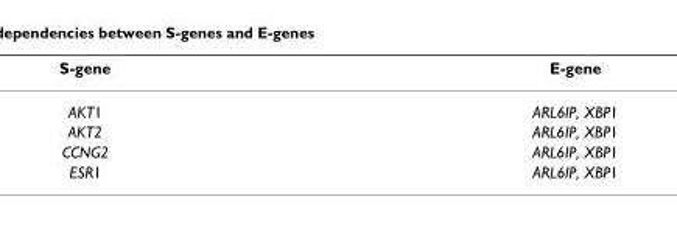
<table><thead><tr><td>S-gene</td><td>E-gene</td></tr></thead><tbody><tr><td>AKT1</td><td>ARL6IP, XBP1</td></tr><tr><td>AKT2</td><td>ARL6IP, XBP1</td></tr><tr><td>CCNG2</td><td>ARL6IP, XBP1</td></tr><tr><td>ESR1</td><td>ARL6IP, XBP1</td></tr></tbody></table>